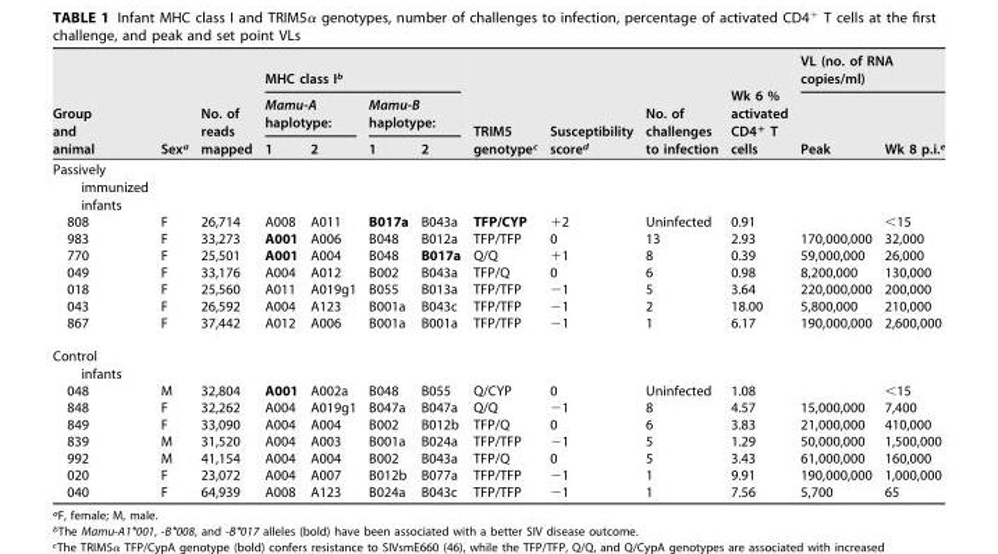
<table><thead><tr><td rowspan="3">Group and animal</td><td rowspan="3">Sex<sup>a</sup></td><td rowspan="3">No. of reads mapped</td><td colspan="4">MHC class I<sup>b</sup></td><td rowspan="3">TRIM5 genotype<sup>c</sup></td><td rowspan="3">Susceptibility score<sup>d</sup></td><td rowspan="3">No. of challenges to infection</td><td rowspan="3">Wk 6 % activated CD4<sup>+</sup> T cells</td><td colspan="2">VL (no. of RNA copies/ml)</td></tr><tr><td colspan="2">Mamu-A haplotype:</td><td colspan="2">Mamu-B haplotype:</td><td rowspan="2">Peak</td><td rowspan="2">Wk 8 p.i.<sup>e</sup></td></tr><tr><td>1</td><td>2</td><td>1</td><td>2</td></tr></thead><tbody><tr><td colspan="13">Passively immunized infants</td></tr><tr><td>808</td><td>F</td><td>26,714</td><td>A008</td><td>A011</td><td>B017a</td><td>B043a</td><td>TFP/CYP</td><td>+2</td><td>Uninfected</td><td>0.91</td><td></td><td>&lt;15</td></tr><tr><td>983</td><td>F</td><td>33,273</td><td>A001</td><td>A006</td><td>B048</td><td>B012a</td><td>TFP/TFP</td><td>0</td><td>13</td><td>2.93</td><td>170,000,000</td><td>32,000</td></tr><tr><td>770</td><td>F</td><td>25,501</td><td>A001</td><td>A004</td><td>B048</td><td>B017a</td><td>Q/Q</td><td>+1</td><td>8</td><td>0.39</td><td>59,000,000</td><td>26,000</td></tr><tr><td>049</td><td>F</td><td>33,176</td><td>A004</td><td>A012</td><td>B002</td><td>B043a</td><td>TFP/Q</td><td>0</td><td>6</td><td>0.98</td><td>8,200,000</td><td>130,000</td></tr><tr><td>018</td><td>F</td><td>25,560</td><td>A011</td><td>A019g1</td><td>B055</td><td>B013a</td><td>TFP/TFP</td><td>−1</td><td>5</td><td>3.64</td><td>220,000,000</td><td>200,000</td></tr><tr><td>043</td><td>F</td><td>26,592</td><td>A004</td><td>A123</td><td>B001a</td><td>B043c</td><td>TFP/TFP</td><td>−1</td><td>2</td><td>18.00</td><td>5,800,000</td><td>210,000</td></tr><tr><td>867</td><td>F</td><td>37,442</td><td>A012</td><td>A006</td><td>B001a</td><td>B001a</td><td>TFP/TFP</td><td>−1</td><td>1</td><td>6.17</td><td>190,000,000</td><td>2,600,000</td></tr><tr><td colspan="13">Control infants</td></tr><tr><td>048</td><td>M</td><td>32,804</td><td>A001</td><td>A002a</td><td>B048</td><td>B055</td><td>Q/CYP</td><td>0</td><td>Uninfected</td><td>1.08</td><td></td><td>&lt;15</td></tr><tr><td>848</td><td>F</td><td>32,262</td><td>A004</td><td>A019g1</td><td>B047a</td><td>B047a</td><td>Q/Q</td><td>−1</td><td>8</td><td>4.57</td><td>15,000,000</td><td>7,400</td></tr><tr><td>849</td><td>F</td><td>33,090</td><td>A004</td><td>A004</td><td>B002</td><td>B012b</td><td>TFP/Q</td><td>0</td><td>6</td><td>3.83</td><td>21,000,000</td><td>410,000</td></tr><tr><td>839</td><td>M</td><td>31,520</td><td>A004</td><td>A003</td><td>B001a</td><td>B024a</td><td>TFP/TFP</td><td>−1</td><td>5</td><td>1.29</td><td>50,000,000</td><td>1,500,000</td></tr><tr><td>992</td><td>M</td><td>41,154</td><td>A004</td><td>A004</td><td>B002</td><td>B043a</td><td>TFP/Q</td><td>0</td><td>5</td><td>3.43</td><td>61,000,000</td><td>160,000</td></tr><tr><td>020</td><td>F</td><td>23,072</td><td>A004</td><td>A007</td><td>B012b</td><td>B077a</td><td>TFP/TFP</td><td>−1</td><td>1</td><td>9.91</td><td>190,000,000</td><td>1,000,000</td></tr><tr><td>040</td><td>F</td><td>64,939</td><td>A008</td><td>A123</td><td>B024a</td><td>B043c</td><td>TFP/TFP</td><td>−1</td><td>1</td><td>7.56</td><td>5,700</td><td>65</td></tr></tbody></table>